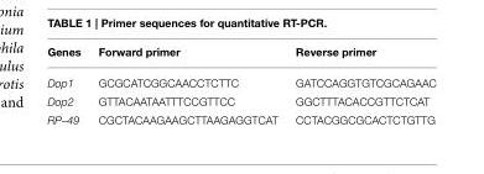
<table><thead><tr><td>Genes</td><td>Forward primer</td><td>Reverse primer</td></tr></thead><tbody><tr><td>Dop1</td><td>GCGCATCGGCAACCTCTTC</td><td>GATCCAGGTGTCGCAGAAC</td></tr><tr><td>Dop2</td><td>GTTACAATAATTTCCGTTCC</td><td>GGCTTTACACCGTTCTCAT</td></tr><tr><td>RP–49</td><td>CGCTACAAGAAGCTTAAGAGGTCAT</td><td>CCTACGGCGCACTCTGTTG</td></tr></tbody></table>